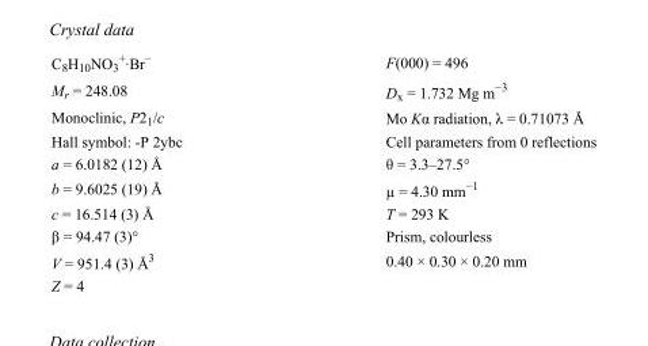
<table><tbody><tr><td>C<sub>8</sub>H<sub>10</sub>NO<sub>3</sub> <sup>+</sup>·Br<sup>−</sup></td><td>F(000) = 496</td></tr><tr><td>M<sub>r</sub> = 248.08</td><td>D<sub>x</sub> = 1.732 Mg m<sup>−3</sup></td></tr><tr><td>Monoclinic, P2<sub>1</sub>/c</td><td>Mo Kα radiation, λ = 0.71073 Å</td></tr><tr><td>Hall symbol: -P 2ybc</td><td>Cell parameters from 0 reflections</td></tr><tr><td>a = 6.0182 (12) Å</td><td>θ = 3.3–27.5°</td></tr><tr><td>b = 9.6025 (19) Å</td><td>µ = 4.30 mm<sup>−1</sup></td></tr><tr><td>c = 16.514 (3) Å</td><td>T = 293 K</td></tr><tr><td>β = 94.47 (3)°</td><td>Prism, colourless</td></tr><tr><td>V = 951.4 (3) Å<sup>3</sup></td><td>0.40 × 0.30 × 0.20 mm</td></tr><tr><td>Z = 4</td><td></td></tr></tbody></table>